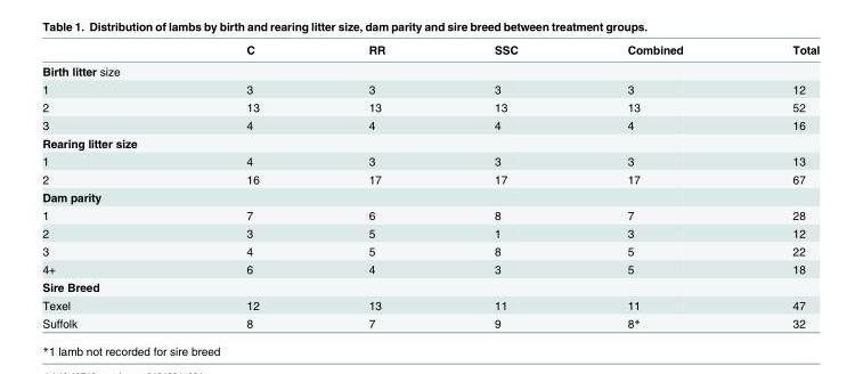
<table><thead><tr><td></td><td>C</td><td>RR</td><td>SSC</td><td>Combined</td><td>Total</td></tr></thead><tbody><tr><td colspan="6">Birth litter size</td></tr><tr><td>1</td><td>3</td><td>3</td><td>3</td><td>3</td><td>12</td></tr><tr><td>2</td><td>13</td><td>13</td><td>13</td><td>13</td><td>52</td></tr><tr><td>3</td><td>4</td><td>4</td><td>4</td><td>4</td><td>16</td></tr><tr><td colspan="6">Rearing litter size</td></tr><tr><td>1</td><td>4</td><td>3</td><td>3</td><td>3</td><td>13</td></tr><tr><td>2</td><td>16</td><td>17</td><td>17</td><td>17</td><td>67</td></tr><tr><td colspan="6">Dam parity</td></tr><tr><td>1</td><td>7</td><td>6</td><td>8</td><td>7</td><td>28</td></tr><tr><td>2</td><td>3</td><td>5</td><td>1</td><td>3</td><td>12</td></tr><tr><td>3</td><td>4</td><td>5</td><td>8</td><td>5</td><td>22</td></tr><tr><td>4+</td><td>6</td><td>4</td><td>3</td><td>5</td><td>18</td></tr><tr><td colspan="6">Sire Breed</td></tr><tr><td>Texel</td><td>12</td><td>13</td><td>11</td><td>11</td><td>47</td></tr><tr><td>Suffolk</td><td>8</td><td>7</td><td>9</td><td>8*</td><td>32</td></tr></tbody></table>